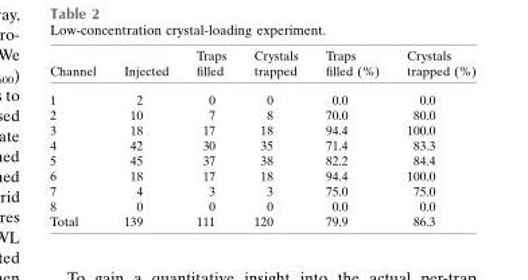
<table><thead><tr><td>Channel</td><td>Injected</td><td>Traps filled</td><td>Crystals trapped</td><td>Traps filled (%)</td><td>Crystals trapped (%)</td></tr></thead><tbody><tr><td>1</td><td>2</td><td>0</td><td>0</td><td>0.0</td><td>0.0</td></tr><tr><td>2</td><td>10</td><td>7</td><td>8</td><td>70.0</td><td>80.0</td></tr><tr><td>3</td><td>18</td><td>17</td><td>18</td><td>94.4</td><td>100.0</td></tr><tr><td>4</td><td>42</td><td>30</td><td>35</td><td>71.4</td><td>83.3</td></tr><tr><td>5</td><td>45</td><td>37</td><td>38</td><td>82.2</td><td>84.4</td></tr><tr><td>6</td><td>18</td><td>17</td><td>18</td><td>94.4</td><td>100.0</td></tr><tr><td>7</td><td>4</td><td>3</td><td>3</td><td>75.0</td><td>75.0</td></tr><tr><td>8</td><td>0</td><td>0</td><td>0</td><td>0.0</td><td>0.0</td></tr><tr><td>Total</td><td>139</td><td>111</td><td>120</td><td>79.9</td><td>86.3</td></tr></tbody></table>